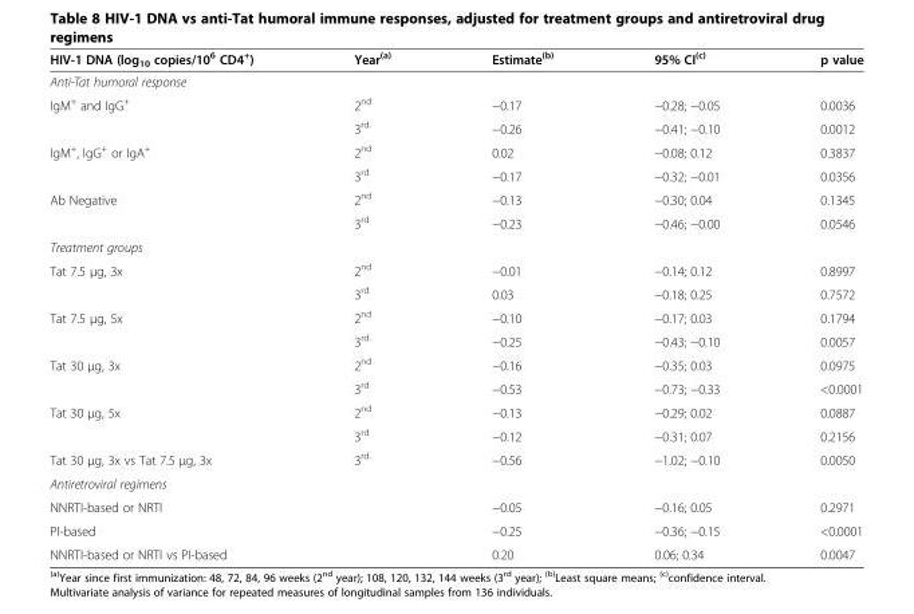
<table><thead><tr><td>HIV-1 DNA (log<sub>10</sub> copies/10<sup>6</sup> CD4<sup>+</sup>)</td><td>Year<sup>(a)</sup></td><td>Estimate<sup>(b)</sup></td><td>95% CI<sup>(c)</sup></td><td>p value</td></tr></thead><tbody><tr><td colspan="5">Anti-Tat humoral response</td></tr><tr><td rowspan="2">IgM<sup>+</sup> and IgG<sup>+</sup></td><td>2<sup>nd</sup></td><td>−0.17</td><td>−0.28; −0.05</td><td>0.0036</td></tr><tr><td>3<sup>rd</sup></td><td>−0.26</td><td>−0.41; −0.10</td><td>0.0012</td></tr><tr><td rowspan="2">IgM<sup>+</sup>, IgG<sup>+</sup> or IgA<sup>+</sup></td><td>2<sup>nd</sup></td><td>0.02</td><td>−0.08; 0.12</td><td>0.3837</td></tr><tr><td>3<sup>rd</sup></td><td>−0.17</td><td>−0.32; −0.01</td><td>0.0356</td></tr><tr><td rowspan="2">Ab Negative</td><td>2<sup>nd</sup></td><td>−0.13</td><td>−0.30; 0.04</td><td>0.1345</td></tr><tr><td>3<sup>rd</sup></td><td>−0.23</td><td>−0.46; −0.00</td><td>0.0546</td></tr><tr><td colspan="5">Treatment groups</td></tr><tr><td rowspan="2">Tat 7.5 μg, 3x</td><td>2<sup>nd</sup></td><td>−0.01</td><td>−0.14; 0.12</td><td>0.8997</td></tr><tr><td>3<sup>rd</sup></td><td>0.03</td><td>−0.18; 0.25</td><td>0.7572</td></tr><tr><td rowspan="2">Tat 7.5 μg, 5x</td><td>2<sup>nd</sup></td><td>−0.10</td><td>−0.17; 0.03</td><td>0.1794</td></tr><tr><td>3<sup>rd</sup></td><td>−0.25</td><td>−0.43; −0.10</td><td>0.0057</td></tr><tr><td rowspan="2">Tat 30 μg, 3x</td><td>2<sup>nd</sup></td><td>−0.16</td><td>−0.35; 0.03</td><td>0.0975</td></tr><tr><td>3<sup>rd</sup></td><td>−0.53</td><td>−0.73; −0.33</td><td>&lt;0.0001</td></tr><tr><td rowspan="2">Tat 30 μg, 5x</td><td>2<sup>nd</sup></td><td>−0.13</td><td>−0.29; 0.02</td><td>0.0887</td></tr><tr><td>3<sup>rd</sup></td><td>−0.12</td><td>−0.31; 0.07</td><td>0.2156</td></tr><tr><td>Tat 30 μg, 3x vs Tat 7.5 μg, 3x</td><td>3<sup>rd</sup></td><td>−0.56</td><td>−1.02; −0.10</td><td>0.0050</td></tr><tr><td colspan="5">Antiretroviral regimens</td></tr><tr><td>NNRTI-based or NRTI</td><td></td><td>−0.05</td><td>−0.16; 0.05</td><td>0.2971</td></tr><tr><td>PI-based</td><td></td><td>−0.25</td><td>−0.36; −0.15</td><td>&lt;0.0001</td></tr><tr><td>NNRTI-based or NRTI vs PI-based</td><td></td><td>0.20</td><td>0.06; 0.34</td><td>0.0047</td></tr></tbody></table>